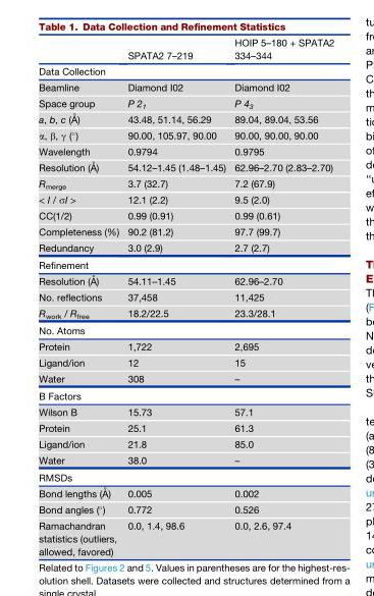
<table><thead><tr><td></td><td>SPATA2 7–219</td><td>HOIP 5–180 + SPATA2 334–344</td></tr></thead><tbody><tr><td colspan="3">Data Collection</td></tr><tr><td>Beamline</td><td>Diamond I02</td><td>Diamond I02</td></tr><tr><td>Space group</td><td>P 2<sub>1</sub></td><td>P 4<sub>3</sub></td></tr><tr><td>a, b, c (A˚ )</td><td>43.48, 51.14, 56.29</td><td>89.04, 89.04, 53.56</td></tr><tr><td>α, β, γ (°)</td><td>90.00, 105.97, 90.00</td><td>90.00, 90.00, 90.00</td></tr><tr><td>Wavelength</td><td>0.9794</td><td>0.9795</td></tr><tr><td>Resolution (A˚ )</td><td>54.12–1.45 (1.48–1.45)</td><td>62.96–2.70 (2.83–2.70)</td></tr><tr><td>R<sub>merge</sub></td><td>3.7 (32.7)</td><td>7.2 (67.9)</td></tr><tr><td>&lt; I / σI &gt;</td><td>12.1 (2.2)</td><td>9.5 (2.0)</td></tr><tr><td>CC(1/2)</td><td>0.99 (0.91)</td><td>0.99 (0.61)</td></tr><tr><td>Completeness (%)</td><td>90.2 (81.2)</td><td>97.7 (99.7)</td></tr><tr><td>Redundancy</td><td>3.0 (2.9)</td><td>2.7 (2.7)</td></tr><tr><td colspan="3">Refinement</td></tr><tr><td>Resolution (A˚ )</td><td>54.11–1.45</td><td>62.96–2.70</td></tr><tr><td>No. reflections</td><td>37,458</td><td>11,425</td></tr><tr><td>R<sub>work</sub> / R<sub>free</sub></td><td>18.2/22.5</td><td>23.3/28.1</td></tr><tr><td colspan="3">No. Atoms</td></tr><tr><td>Protein</td><td>1,722</td><td>2,695</td></tr><tr><td>Ligand/ion</td><td>12</td><td>15</td></tr><tr><td>Water</td><td>308</td><td>–</td></tr><tr><td colspan="3">B Factors</td></tr><tr><td>Wilson B</td><td>15.73</td><td>57.1</td></tr><tr><td>Protein</td><td>25.1</td><td>61.3</td></tr><tr><td>Ligand/ion</td><td>21.8</td><td>85.0</td></tr><tr><td>Water</td><td>38.0</td><td>–</td></tr><tr><td colspan="3">RMSDs</td></tr><tr><td>Bond lengths (A˚ )</td><td>0.005</td><td>0.002</td></tr><tr><td>Bond angles (°)</td><td>0.772</td><td>0.526</td></tr><tr><td>Ramachandran statistics (outliers, allowed, favored)</td><td>0.0, 1.4, 98.6</td><td>0.0, 2.6, 97.4</td></tr></tbody></table>